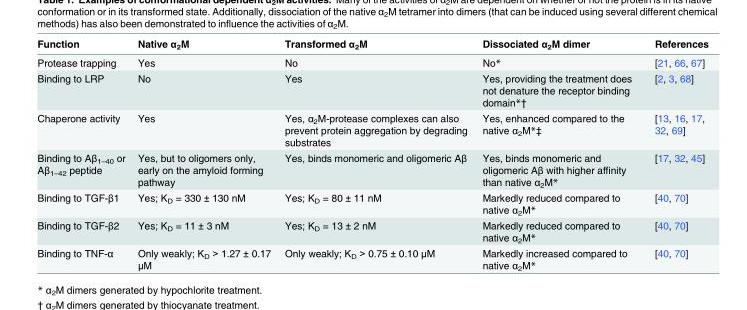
<table><thead><tr><td>Function</td><td>Native α<sub>2</sub>M</td><td>Transformed α<sub>2</sub>M</td><td>Dissociated α<sub>2</sub>M dimer</td><td>References</td></tr></thead><tbody><tr><td>Protease trapping</td><td>Yes</td><td>No</td><td>No*</td><td>[21, 66, 67]</td></tr><tr><td>Binding to LRP</td><td>No</td><td>Yes</td><td>Yes, providing the treatment does not denature the receptor binding domain*†</td><td>[2, 3, 68]</td></tr><tr><td>Chaperone activity</td><td>Yes</td><td>Yes, α<sub>2</sub>M-protease complexes can also prevent protein aggregation by degrading substrates</td><td>Yes, enhanced compared to the native α<sub>2</sub>M*‡</td><td>[13, 16, 17, 32, 69]</td></tr><tr><td>Binding to Aβ<sub>1–40</sub> or Aβ<sub>1–42</sub> peptide</td><td>Yes, but to oligomers only, early on the amyloid forming pathway</td><td>Yes, binds monomeric and oligomeric Aβ</td><td>Yes, binds monomeric and oligomeric Aβ with higher affinity than native α<sub>2</sub>M*</td><td>[17, 32, 45]</td></tr><tr><td>Binding to TGF-β1</td><td>Yes; K<sub>D</sub> = 330 ± 130 nM</td><td>Yes; K<sub>D</sub> = 80 ± 11 nM</td><td>Markedly reduced compared to native α<sub>2</sub>M*</td><td>[40, 70]</td></tr><tr><td>Binding to TGF-β2</td><td>Yes; K<sub>D</sub> = 11 ± 3 nM</td><td>Yes; K<sub>D</sub> = 13 ± 2 nM</td><td>Markedly reduced compared to native α<sub>2</sub>M*</td><td>[40, 70]</td></tr><tr><td>Binding to TNF-α</td><td>Only weakly; K<sub>D</sub> &gt; 1.27 ± 0.17 µM</td><td>Only weakly; K<sub>D</sub> &gt; 0.75 ± 0.10 µM</td><td>Markedly increased compared to native α<sub>2</sub>M*</td><td>[40, 70]</td></tr></tbody></table>